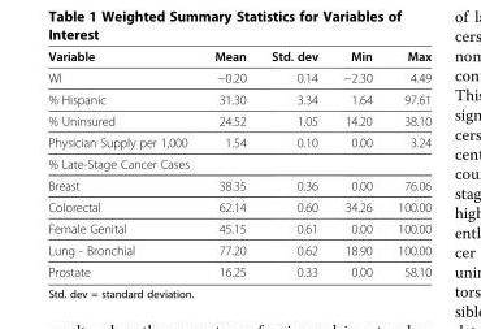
<table><thead><tr><td>Variable</td><td>Mean</td><td>Std. dev</td><td>Min</td><td>Max</td></tr></thead><tbody><tr><td>WI</td><td>−0.20</td><td>0.14</td><td>−2.30</td><td>4.49</td></tr><tr><td>% Hispanic</td><td>31.30</td><td>3.34</td><td>1.64</td><td>97.61</td></tr><tr><td>% Uninsured</td><td>24.52</td><td>1.05</td><td>14.20</td><td>38.10</td></tr><tr><td>Physician Supply per 1,000</td><td>1.54</td><td>0.10</td><td>0.00</td><td>3.24</td></tr><tr><td colspan="5">% Late-Stage Cancer Cases</td></tr><tr><td>Breast</td><td>38.35</td><td>0.36</td><td>0.00</td><td>76.06</td></tr><tr><td>Colorectal</td><td>62.14</td><td>0.60</td><td>34.26</td><td>100.00</td></tr><tr><td>Female Genital</td><td>45.15</td><td>0.61</td><td>0.00</td><td>100.00</td></tr><tr><td>Lung - Bronchial</td><td>77.20</td><td>0.62</td><td>18.90</td><td>100.00</td></tr><tr><td>Prostate</td><td>16.25</td><td>0.33</td><td>0.00</td><td>58.10</td></tr></tbody></table>